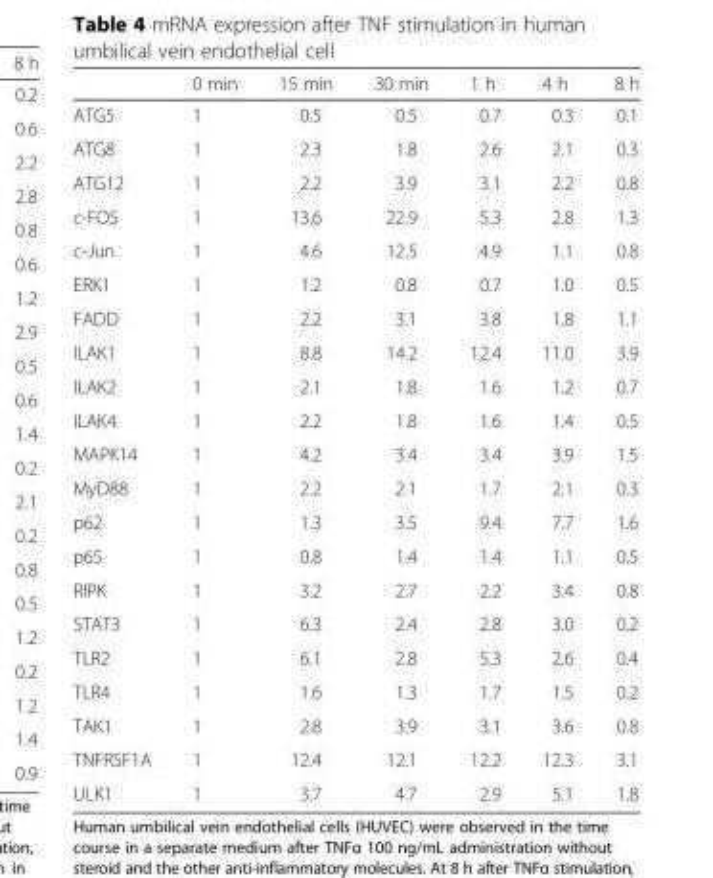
<table><thead><tr><td></td><td>0 min</td><td>15 min</td><td>30 min</td><td>1 h</td><td>4 h</td><td>8 h</td></tr></thead><tbody><tr><td>ATG5</td><td>1</td><td>0.5</td><td>0.5</td><td>0.7</td><td>0.3</td><td>0.1</td></tr><tr><td>ATG8</td><td>1</td><td>2.3</td><td>1.8</td><td>2.6</td><td>2.1</td><td>0.3</td></tr><tr><td>ATG12</td><td>1</td><td>2.2</td><td>3.9</td><td>3.1</td><td>2.2</td><td>0.8</td></tr><tr><td>c-FOS</td><td>1</td><td>13.6</td><td>22.9</td><td>5.3</td><td>2.8</td><td>1.3</td></tr><tr><td>c-Jun</td><td>1</td><td>4.6</td><td>12.5</td><td>4.9</td><td>1.1</td><td>0.8</td></tr><tr><td>ERK1</td><td>1</td><td>1.2</td><td>0.8</td><td>0.7</td><td>1.0</td><td>0.5</td></tr><tr><td>FADD</td><td>1</td><td>2.2</td><td>3.1</td><td>3.8</td><td>1.8</td><td>1.1</td></tr><tr><td>ILAK1</td><td>1</td><td>8.8</td><td>14.2</td><td>12.4</td><td>11.0</td><td>3.9</td></tr><tr><td>ILAK2</td><td>1</td><td>2.1</td><td>1.8</td><td>1.6</td><td>1.2</td><td>0.7</td></tr><tr><td>ILAK4</td><td>1</td><td>2.2</td><td>1.8</td><td>1.6</td><td>1.4</td><td>0.5</td></tr><tr><td>MAPK14</td><td>1</td><td>4.2</td><td>3.4</td><td>3.4</td><td>3.9</td><td>1.5</td></tr><tr><td>MyD88</td><td>1</td><td>2.2</td><td>2.1</td><td>1.7</td><td>2.1</td><td>0.3</td></tr><tr><td>p62</td><td>1</td><td>1.3</td><td>3.5</td><td>9.4</td><td>7.7</td><td>1.6</td></tr><tr><td>p65</td><td>1</td><td>0.8</td><td>1.4</td><td>1.4</td><td>1.1</td><td>0.5</td></tr><tr><td>RIPK</td><td>1</td><td>3.2</td><td>2.7</td><td>2.2</td><td>3.4</td><td>0.8</td></tr><tr><td>STAT3</td><td>1</td><td>6.3</td><td>2.4</td><td>2.8</td><td>3.0</td><td>0.2</td></tr><tr><td>TLR2</td><td>1</td><td>6.1</td><td>2.8</td><td>5.3</td><td>2.6</td><td>0.4</td></tr><tr><td>TLR4</td><td>1</td><td>1.6</td><td>1.3</td><td>1.7</td><td>1.5</td><td>0.2</td></tr><tr><td>TAK1</td><td>1</td><td>2.8</td><td>3.9</td><td>3.1</td><td>3.6</td><td>0.8</td></tr><tr><td>TNFRSF1A</td><td>1</td><td>12.4</td><td>12.1</td><td>12.2</td><td>12.3</td><td>3.1</td></tr><tr><td>ULK1</td><td>1</td><td>3.7</td><td>4.7</td><td>2.9</td><td>5.1</td><td>1.8</td></tr></tbody></table>